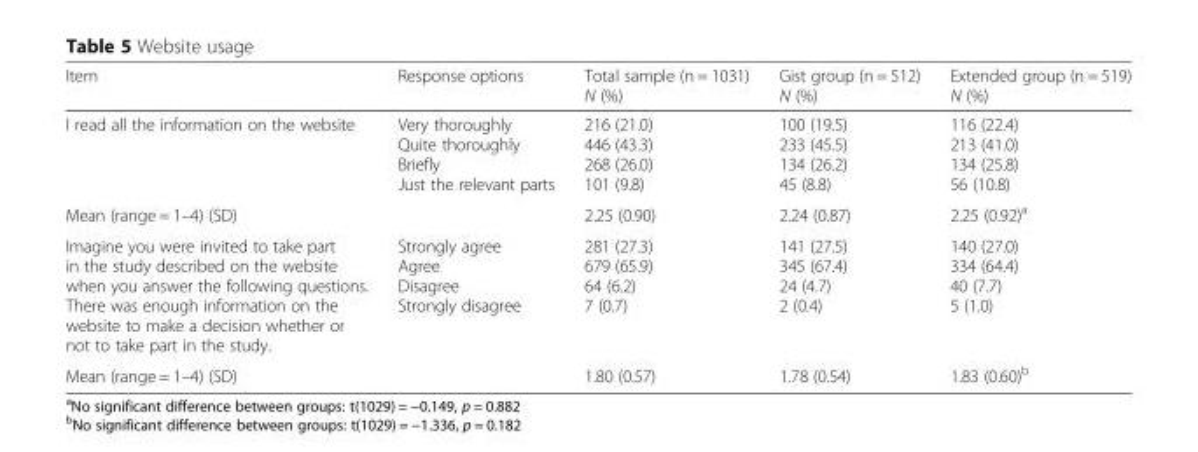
<table><thead><tr><td>Item</td><td>Response options</td><td>Total sample (n = 1031) N (%)</td><td>Gist group (n = 512) N (%)</td><td>Extended group (n = 519) N (%)</td></tr></thead><tbody><tr><td>I read all the information on the website</td><td>Very thoroughly Quite thoroughly Briefly Just the relevant parts</td><td>216 (21.0) 446 (43.3) 268 (26.0) 101 (9.8)</td><td>100 (19.5) 233 (45.5) 134 (26.2) 45 (8.8)</td><td>116 (22.4) 213 (41.0) 134 (25.8) 56 (10.8)</td></tr><tr><td>Mean (range = 1–4) (SD)</td><td></td><td>2.25 (0.90)</td><td>2.24 (0.87)</td><td>2.25 (0.92)<sup>a</sup></td></tr><tr><td>Imagine you were invited to take part in the study described on the website when you answer the following questions. There was enough information on the website to make a decision whether or not to take part in the study.</td><td>Strongly agree Agree Disagree Strongly disagree</td><td>281 (27.3) 679 (65.9) 64 (6.2) 7 (0.7)</td><td>141 (27.5) 345 (67.4) 24 (4.7) 2 (0.4)</td><td>140 (27.0) 334 (64.4) 40 (7.7) 5 (1.0)</td></tr><tr><td>Mean (range = 1–4) (SD)</td><td></td><td>1.80 (0.57)</td><td>1.78 (0.54)</td><td>1.83 (0.60)<sup>b</sup></td></tr></tbody></table>